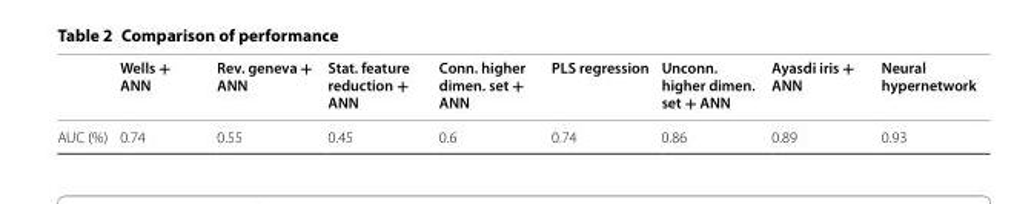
<table><thead><tr><td></td><td>Wells + ANN</td><td>Rev. geneva + ANN</td><td>Stat. feature reduction + ANN</td><td>Conn. higher dimen. set + ANN</td><td>PLS regression</td><td>Unconn. higher dimen. set + ANN</td><td>Ayasdi iris + ANN</td><td>Neural hypernetwork</td></tr></thead><tbody><tr><td>AUC (%)</td><td>0.74</td><td>0.55</td><td>0.45</td><td>0.6</td><td>0.74</td><td>0.86</td><td>0.89</td><td>0.93</td></tr></tbody></table>